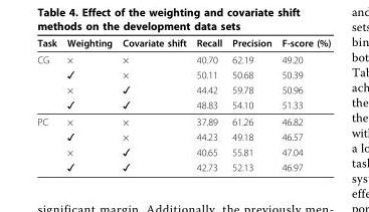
<table><thead><tr><td>Task</td><td>Weighting</td><td>Covariate shift</td><td>Recall</td><td>Precision</td><td>F-score (%)</td></tr></thead><tbody><tr><td rowspan="4">CG</td><td>×</td><td>×</td><td>40.70</td><td>62.19</td><td>49.20</td></tr><tr><td>✓</td><td>×</td><td>50.11</td><td>50.68</td><td>50.39</td></tr><tr><td>×</td><td>✓</td><td>44.42</td><td>59.78</td><td>50.96</td></tr><tr><td>✓</td><td>✓</td><td>48.83</td><td>54.10</td><td>51.33</td></tr><tr><td rowspan="4">PC</td><td>×</td><td>×</td><td>37.89</td><td>61.26</td><td>46.82</td></tr><tr><td>✓</td><td>×</td><td>44.23</td><td>49.18</td><td>46.57</td></tr><tr><td>×</td><td>✓</td><td>40.65</td><td>55.81</td><td>47.04</td></tr><tr><td>✓</td><td>✓</td><td>42.73</td><td>52.13</td><td>46.97</td></tr></tbody></table>